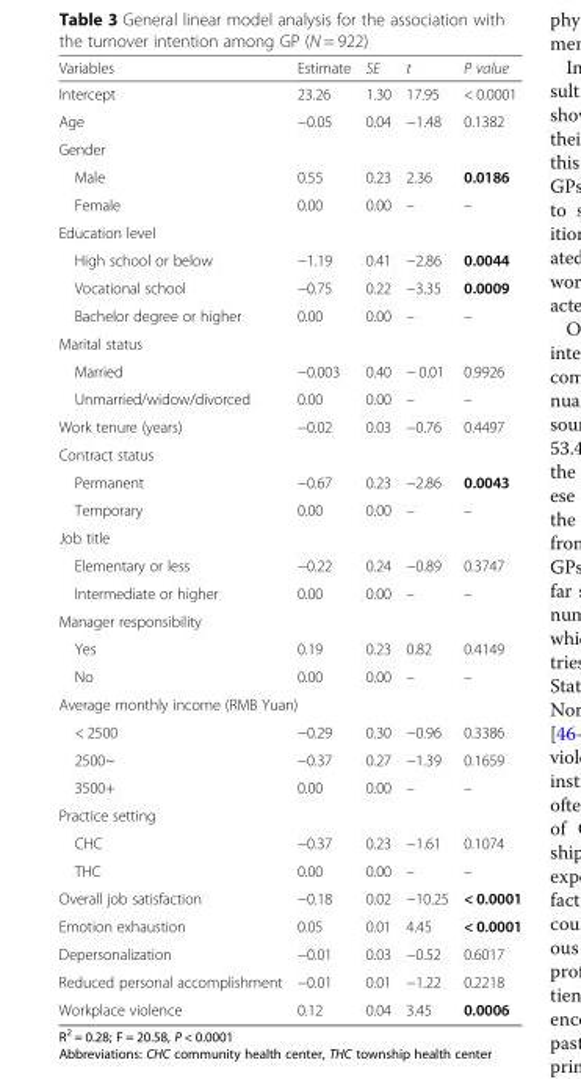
<table><thead><tr><td>Variables</td><td>Estimate</td><td>SE</td><td>t</td><td>P value</td></tr></thead><tbody><tr><td>Intercept</td><td>23.26</td><td>1.30</td><td>17.95</td><td>&lt; 0.0001</td></tr><tr><td>Age</td><td>−0.05</td><td>0.04</td><td>−1.48</td><td>0.1382</td></tr><tr><td colspan="5">Gender</td></tr><tr><td>Male</td><td>0.55</td><td>0.23</td><td>2.36</td><td>0.0186</td></tr><tr><td>Female</td><td>0.00</td><td>0.00</td><td>–</td><td>–</td></tr><tr><td colspan="5">Education level</td></tr><tr><td>High school or below</td><td>−1.19</td><td>0.41</td><td>−2.86</td><td>0.0044</td></tr><tr><td>Vocational school</td><td>−0.75</td><td>0.22</td><td>−3.35</td><td>0.0009</td></tr><tr><td>Bachelor degree or higher</td><td>0.00</td><td>0.00</td><td>–</td><td>–</td></tr><tr><td colspan="5">Marital status</td></tr><tr><td>Married</td><td>−0.003</td><td>0.40</td><td>− 0.01</td><td>0.9926</td></tr><tr><td>Unmarried/widow/divorced</td><td>0.00</td><td>0.00</td><td>–</td><td>–</td></tr><tr><td>Work tenure (years)</td><td>−0.02</td><td>0.03</td><td>−0.76</td><td>0.4497</td></tr><tr><td colspan="5">Contract status</td></tr><tr><td>Permanent</td><td>−0.67</td><td>0.23</td><td>−2.86</td><td>0.0043</td></tr><tr><td>Temporary</td><td>0.00</td><td>0.00</td><td>–</td><td>–</td></tr><tr><td colspan="5">Job title</td></tr><tr><td>Elementary or less</td><td>−0.22</td><td>0.24</td><td>−0.89</td><td>0.3747</td></tr><tr><td>Intermediate or higher</td><td>0.00</td><td>0.00</td><td>–</td><td>–</td></tr><tr><td colspan="5">Manager responsibility</td></tr><tr><td>Yes</td><td>0.19</td><td>0.23</td><td>0.82</td><td>0.4149</td></tr><tr><td>No</td><td>0.00</td><td>0.00</td><td>–</td><td>–</td></tr><tr><td colspan="5">Average monthly income (RMB Yuan)</td></tr><tr><td>&lt; 2500</td><td>−0.29</td><td>0.30</td><td>−0.96</td><td>0.3386</td></tr><tr><td>2500~</td><td>−0.37</td><td>0.27</td><td>−1.39</td><td>0.1659</td></tr><tr><td>3500+</td><td>0.00</td><td>0.00</td><td>–</td><td>–</td></tr><tr><td colspan="5">Practice setting</td></tr><tr><td>CHC</td><td>−0.37</td><td>0.23</td><td>−1.61</td><td>0.1074</td></tr><tr><td>THC</td><td>0.00</td><td>0.00</td><td>–</td><td>–</td></tr><tr><td>Overall job satisfaction</td><td>−0.18</td><td>0.02</td><td>−10.25</td><td>&lt; 0.0001</td></tr><tr><td>Emotion exhaustion</td><td>0.05</td><td>0.01</td><td>4.45</td><td>&lt; 0.0001</td></tr><tr><td>Depersonalization</td><td>−0.01</td><td>0.03</td><td>−0.52</td><td>0.6017</td></tr><tr><td>Reduced personal accomplishment</td><td>−0.01</td><td>0.01</td><td>−1.22</td><td>0.2218</td></tr><tr><td>Workplace violence</td><td>0.12</td><td>0.04</td><td>3.45</td><td>0.0006</td></tr></tbody></table>